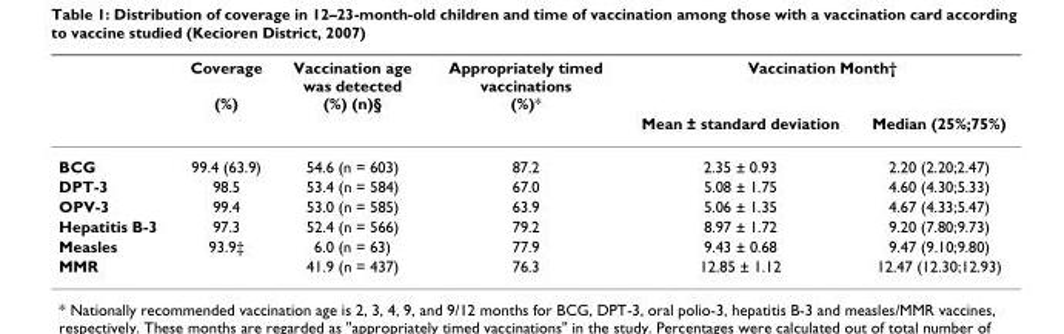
<table><thead><tr><td rowspan="2"></td><td rowspan="2">Coverage (%)</td><td rowspan="2">Vaccination age was detected (%) (n)§</td><td rowspan="2">Appropriately timed vaccinations (%)*</td><td colspan="2">Vaccination Month†</td></tr><tr><td>Mean ± standard deviation</td><td>Median (25%;75%)</td></tr></thead><tbody><tr><td>BCG</td><td>99.4 (63.9)</td><td>54.6 (n = 603)</td><td>87.2</td><td>2.35 ± 0.93</td><td>2.20 (2.20;2.47)</td></tr><tr><td>DPT-3</td><td>98.5</td><td>53.4 (n = 584)</td><td>67.0</td><td>5.08 ± 1.75</td><td>4.60 (4.30;5.33)</td></tr><tr><td>OPV-3</td><td>99.4</td><td>53.0 (n = 585)</td><td>63.9</td><td>5.06 ± 1.35</td><td>4.67 (4.33;5.47)</td></tr><tr><td>Hepatitis B-3</td><td>97.3</td><td>52.4 (n = 566)</td><td>79.2</td><td>8.97 ± 1.72</td><td>9.20 (7.80;9.73)</td></tr><tr><td>Measles</td><td>93.9‡</td><td>6.0 (n = 63)</td><td>77.9</td><td>9.43 ± 0.68</td><td>9.47 (9.10;9.80)</td></tr><tr><td>MMR</td><td></td><td>41.9 (n = 437)</td><td>76.3</td><td>12.85 ± 1.12</td><td>12.47 (12.30;12.93)</td></tr></tbody></table>